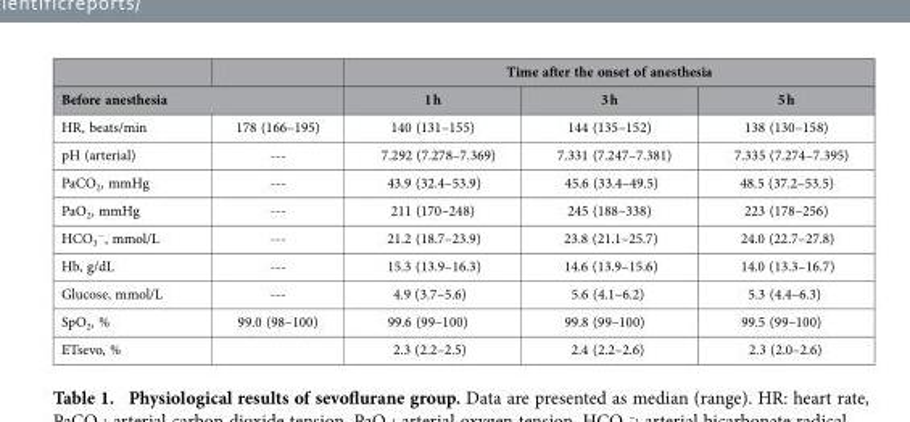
<table><thead><tr><td></td><td></td><td colspan="3">Time after the onset of anesthesia</td></tr><tr><td colspan="2">Before anesthesia</td><td>1 h</td><td>3 h</td><td>5 h</td></tr></thead><tbody><tr><td>HR, beats/min</td><td>178 (166–195)</td><td>140 (131–155)</td><td>144 (135–152)</td><td>138 (130–158)</td></tr><tr><td>pH (arterial)</td><td>---</td><td>7.292 (7.278–7.369)</td><td>7.331 (7.247–7.381)</td><td>7.335 (7.274–7.395)</td></tr><tr><td>PaCO<sub>2</sub>, mmHg</td><td>---</td><td>43.9 (32.4–53.9)</td><td>45.6 (33.4–49.5)</td><td>48.5 (37.2–53.5)</td></tr><tr><td>PaO<sub>2</sub>, mmHg</td><td>---</td><td>211 (170–248)</td><td>245 (188–338)</td><td>223 (178–256)</td></tr><tr><td>HCO<sub>3</sub> <sup>−</sup>, mmol/L</td><td>---</td><td>21.2 (18.7–23.9)</td><td>23.8 (21.1–25.7)</td><td>24.0 (22.7–27.8)</td></tr><tr><td>Hb, g/dL</td><td>---</td><td>15.3 (13.9–16.3)</td><td>14.6 (13.9–15.6)</td><td>14.0 (13.3–16.7)</td></tr><tr><td>Glucose, mmol/L</td><td>---</td><td>4.9 (3.7–5.6)</td><td>5.6 (4.1–6.2)</td><td>5.3 (4.4–6.3)</td></tr><tr><td>SpO<sub>2</sub>, %</td><td>99.0 (98–100)</td><td>99.6 (99–100)</td><td>99.8 (99–100)</td><td>99.5 (99–100)</td></tr><tr><td>ETsevo, %</td><td></td><td>2.3 (2.2–2.5)</td><td>2.4 (2.2–2.6)</td><td>2.3 (2.0–2.6)</td></tr></tbody></table>